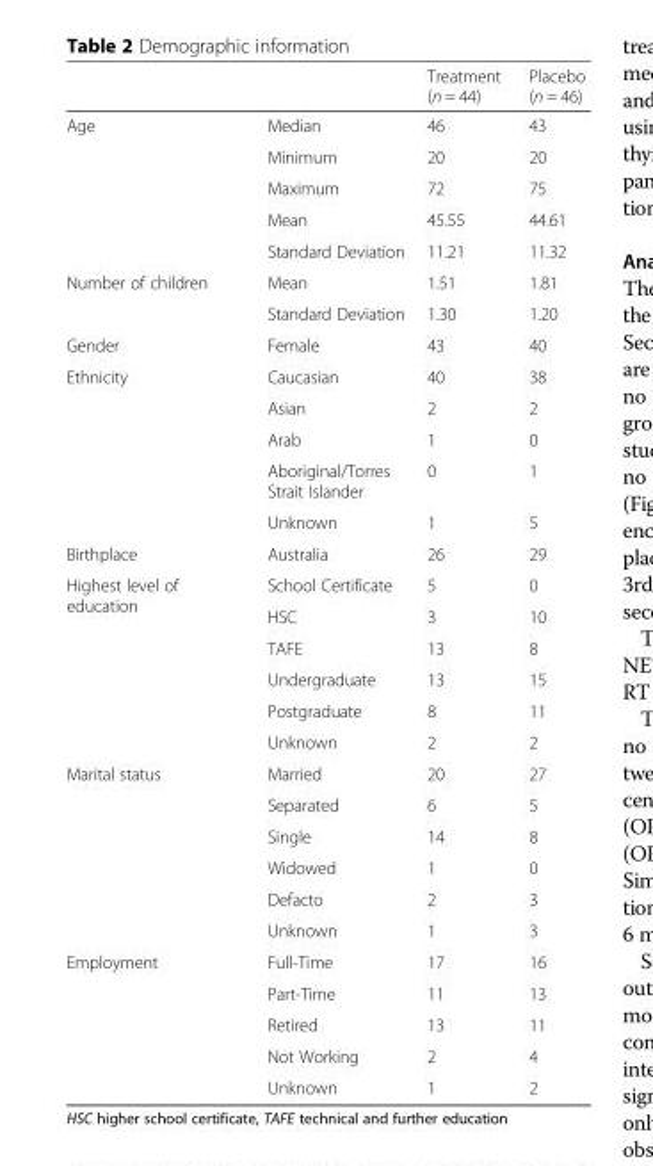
<table><thead><tr><td></td><td></td><td>Treatment (n = 44)</td><td>Placebo (n = 46)</td></tr></thead><tbody><tr><td rowspan="5">Age</td><td>Median</td><td>46</td><td>43</td></tr><tr><td>Minimum</td><td>20</td><td>20</td></tr><tr><td>Maximum</td><td>72</td><td>75</td></tr><tr><td>Mean</td><td>45.55</td><td>44.61</td></tr><tr><td>Standard Deviation</td><td>11.21</td><td>11.32</td></tr><tr><td rowspan="2">Number of children</td><td>Mean</td><td>1.51</td><td>1.81</td></tr><tr><td>Standard Deviation</td><td>1.30</td><td>1.20</td></tr><tr><td>Gender</td><td>Female</td><td>43</td><td>40</td></tr><tr><td rowspan="5">Ethnicity</td><td>Caucasian</td><td>40</td><td>38</td></tr><tr><td>Asian</td><td>2</td><td>2</td></tr><tr><td>Arab</td><td>1</td><td>0</td></tr><tr><td>Aboriginal/Torres Strait Islander</td><td>0</td><td>1</td></tr><tr><td>Unknown</td><td>1</td><td>5</td></tr><tr><td>Birthplace</td><td>Australia</td><td>26</td><td>29</td></tr><tr><td rowspan="6">Highest level of education</td><td>School Certificate</td><td>5</td><td>0</td></tr><tr><td>HSC</td><td>3</td><td>10</td></tr><tr><td>TAFE</td><td>13</td><td>8</td></tr><tr><td>Undergraduate</td><td>13</td><td>15</td></tr><tr><td>Postgraduate</td><td>8</td><td>11</td></tr><tr><td>Unknown</td><td>2</td><td>2</td></tr><tr><td rowspan="6">Marital status</td><td>Married</td><td>20</td><td>27</td></tr><tr><td>Separated</td><td>6</td><td>5</td></tr><tr><td>Single</td><td>14</td><td>8</td></tr><tr><td>Widowed</td><td>1</td><td>0</td></tr><tr><td>Defacto</td><td>2</td><td>3</td></tr><tr><td>Unknown</td><td>1</td><td>3</td></tr><tr><td rowspan="5">Employment</td><td>Full-Time</td><td>17</td><td>16</td></tr><tr><td>Part-Time</td><td>11</td><td>13</td></tr><tr><td>Retired</td><td>13</td><td>11</td></tr><tr><td>Not Working</td><td>2</td><td>4</td></tr><tr><td>Unknown</td><td>1</td><td>2</td></tr></tbody></table>